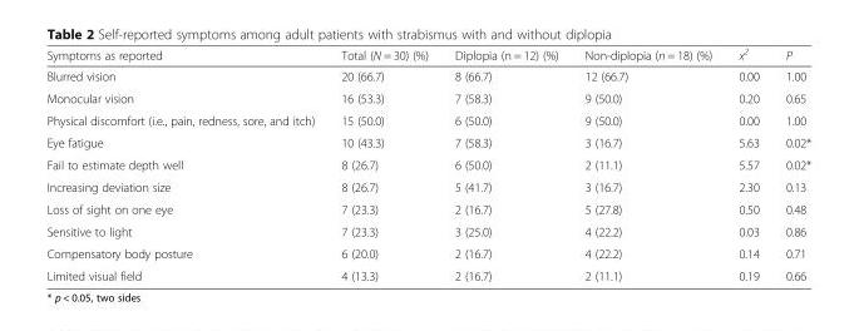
<table><thead><tr><td>Symptoms as reported</td><td>Total (N = 30) (%)</td><td>Diplopia (n = 12) (%)</td><td>Non-diplopia (n = 18) (%)</td><td>x<sup>2</sup></td><td>P</td></tr></thead><tbody><tr><td>Blurred vision</td><td>20 (66.7)</td><td>8 (66.7)</td><td>12 (66.7)</td><td>0.00</td><td>1.00</td></tr><tr><td>Monocular vision</td><td>16 (53.3)</td><td>7 (58.3)</td><td>9 (50.0)</td><td>0.20</td><td>0.65</td></tr><tr><td>Physical discomfort (i.e., pain, redness, sore, and itch)</td><td>15 (50.0)</td><td>6 (50.0)</td><td>9 (50.0)</td><td>0.00</td><td>1.00</td></tr><tr><td>Eye fatigue</td><td>10 (43.3)</td><td>7 (58.3)</td><td>3 (16.7)</td><td>5.63</td><td>0.02*</td></tr><tr><td>Fail to estimate depth well</td><td>8 (26.7)</td><td>6 (50.0)</td><td>2 (11.1)</td><td>5.57</td><td>0.02*</td></tr><tr><td>Increasing deviation size</td><td>8 (26.7)</td><td>5 (41.7)</td><td>3 (16.7)</td><td>2.30</td><td>0.13</td></tr><tr><td>Loss of sight on one eye</td><td>7 (23.3)</td><td>2 (16.7)</td><td>5 (27.8)</td><td>0.50</td><td>0.48</td></tr><tr><td>Sensitive to light</td><td>7 (23.3)</td><td>3 (25.0)</td><td>4 (22.2)</td><td>0.03</td><td>0.86</td></tr><tr><td>Compensatory body posture</td><td>6 (20.0)</td><td>2 (16.7)</td><td>4 (22.2)</td><td>0.14</td><td>0.71</td></tr><tr><td>Limited visual field</td><td>4 (13.3)</td><td>2 (16.7)</td><td>2 (11.1)</td><td>0.19</td><td>0.66</td></tr></tbody></table>